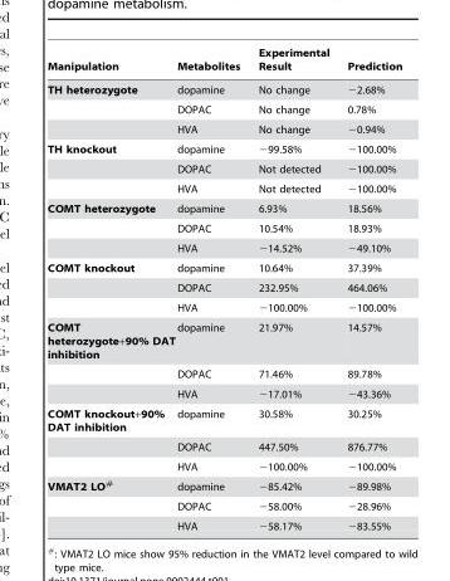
<table><thead><tr><td>Manipulation</td><td>Metabolites</td><td>Experimental Result</td><td>Prediction</td></tr></thead><tbody><tr><td rowspan="3">TH heterozygote</td><td>dopamine</td><td>No change</td><td>−2.68%</td></tr><tr><td>DOPAC</td><td>No change</td><td>0.78%</td></tr><tr><td>HVA</td><td>No change</td><td>−0.94%</td></tr><tr><td rowspan="3">TH knockout</td><td>dopamine</td><td>−99.58%</td><td>−100.00%</td></tr><tr><td>DOPAC</td><td>Not detected</td><td>−100.00%</td></tr><tr><td>HVA</td><td>Not detected</td><td>−100.00%</td></tr><tr><td rowspan="3">COMT heterozygote</td><td>dopamine</td><td>6.93%</td><td>18.56%</td></tr><tr><td>DOPAC</td><td>10.54%</td><td>18.93%</td></tr><tr><td>HVA</td><td>−14.52%</td><td>−49.10%</td></tr><tr><td rowspan="3">COMT knockout</td><td>dopamine</td><td>10.64%</td><td>37.39%</td></tr><tr><td>DOPAC</td><td>232.95%</td><td>464.06%</td></tr><tr><td>HVA</td><td>−100.00%</td><td>−100.00%</td></tr><tr><td rowspan="3">COMT heterozygote+90% DAT inhibition</td><td>dopamine</td><td>21.97%</td><td>14.57%</td></tr><tr><td>DOPAC</td><td>71.46%</td><td>89.78%</td></tr><tr><td>HVA</td><td>−17.01%</td><td>−43.36%</td></tr><tr><td rowspan="3">COMT knockout+90% DAT inhibition</td><td>dopamine</td><td>30.58%</td><td>30.25%</td></tr><tr><td>DOPAC</td><td>447.50%</td><td>876.77%</td></tr><tr><td>HVA</td><td>−100.00%</td><td>−100.00%</td></tr><tr><td rowspan="3">VMAT2 LO#</td><td>dopamine</td><td>−85.42%</td><td>−89.98%</td></tr><tr><td>DOPAC</td><td>−58.00%</td><td>−28.96%</td></tr><tr><td>HVA</td><td>−58.17%</td><td>−83.55%</td></tr></tbody></table>